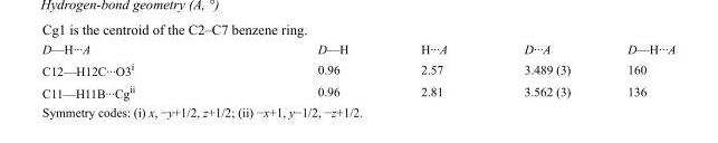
<table><tbody><tr><td>D—H···A</td><td>D—H</td><td>H···A</td><td>D···A</td><td>D—H···A</td></tr><tr><td>C12—H12C···O3<sup>i</sup></td><td>0.96</td><td>2.57</td><td>3.489 (3)</td><td>160</td></tr><tr><td>C11—H11B···Cg<sup>ii</sup></td><td>0.96</td><td>2.81</td><td>3.562 (3)</td><td>136</td></tr></tbody></table>